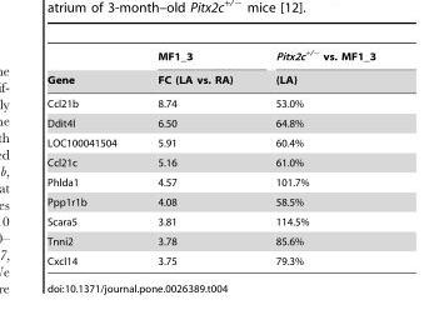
<table><thead><tr><td rowspan="2">Gene</td><td rowspan="2">MF1_3 FC (LA vs. RA)</td><td rowspan="2">Pitx2c<sup>+/−</sup> vs. MF1_3 (LA)</td></tr><tr></tr></thead><tbody><tr><td>Ccl21b</td><td>8.74</td><td>53.0%</td></tr><tr><td>Ddit4l</td><td>6.50</td><td>64.8%</td></tr><tr><td>LOC100041504</td><td>5.91</td><td>60.4%</td></tr><tr><td>Ccl21c</td><td>5.16</td><td>61.0%</td></tr><tr><td>Phlda1</td><td>4.57</td><td>101.7%</td></tr><tr><td>Ppp1r1b</td><td>4.08</td><td>58.5%</td></tr><tr><td>Scara5</td><td>3.81</td><td>114.5%</td></tr><tr><td>Tnni2</td><td>3.78</td><td>85.6%</td></tr><tr><td>Cxcl14</td><td>3.75</td><td>79.3%</td></tr></tbody></table>